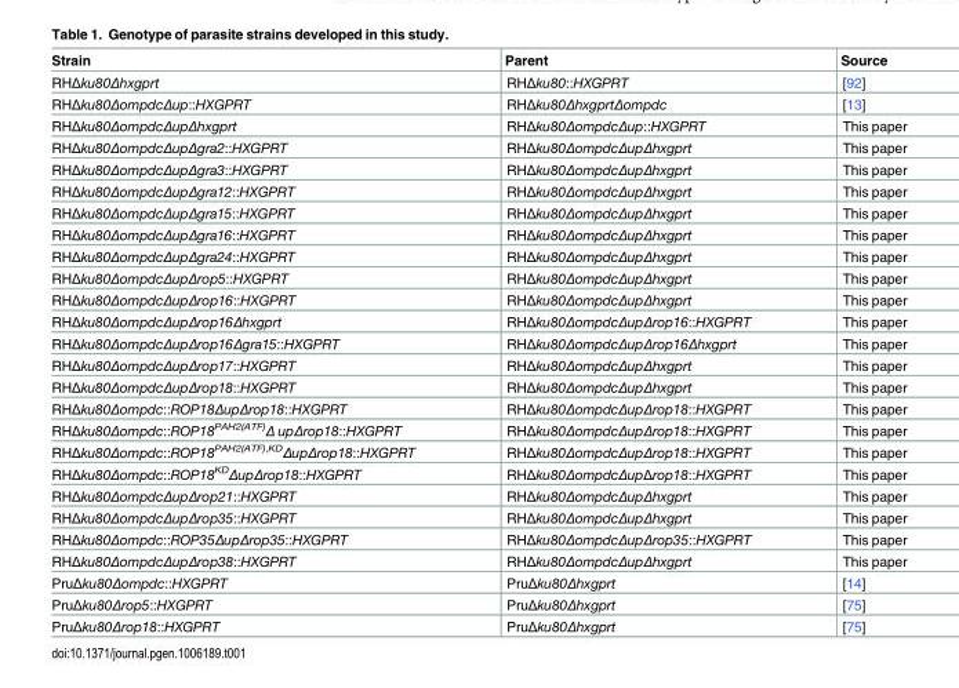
<table><thead><tr><td>Strain</td><td>Parent</td><td>Source</td></tr></thead><tbody><tr><td>RHΔku80Δhxgprt</td><td>RHΔku80::HXGPRT</td><td>[92]</td></tr><tr><td>RHΔku80ΔompdcΔup::HXGPRT</td><td>RHΔku80ΔhxgprtΔompdc</td><td>[13]</td></tr><tr><td>RHΔku80ΔompdcΔupΔhxgprt</td><td>RHΔku80ΔompdcΔup::HXGPRT</td><td>This paper</td></tr><tr><td>RHΔku80ΔompdcΔupΔgra2::HXGPRT</td><td>RHΔku80ΔompdcΔupΔhxgprt</td><td>This paper</td></tr><tr><td>RHΔku80ΔompdcΔupΔgra3::HXGPRT</td><td>RHΔku80ΔompdcΔupΔhxgprt</td><td>This paper</td></tr><tr><td>RHΔku80ΔompdcΔupΔgra12::HXGPRT</td><td>RHΔku80ΔompdcΔupΔhxgprt</td><td>This paper</td></tr><tr><td>RHΔku80ΔompdcΔupΔgra15::HXGPRT</td><td>RHΔku80ΔompdcΔupΔhxgprt</td><td>This paper</td></tr><tr><td>RHΔku80ΔompdcΔupΔgra16::HXGPRT</td><td>RHΔku80ΔompdcΔupΔhxgprt</td><td>This paper</td></tr><tr><td>RHΔku80ΔompdcΔupΔgra24::HXGPRT</td><td>RHΔku80ΔompdcΔupΔhxgprt</td><td>This paper</td></tr><tr><td>RHΔku80ΔompdcΔupΔrop5::HXGPRT</td><td>RHΔku80ΔompdcΔupΔhxgprt</td><td>This paper</td></tr><tr><td>RHΔku80ΔompdcΔupΔrop16::HXGPRT</td><td>RHΔku80ΔompdcΔupΔhxgprt</td><td>This paper</td></tr><tr><td>RHΔku80ΔompdcΔupΔrop16Δhxgprt</td><td>RHΔku80ΔompdcΔupΔrop16::HXGPRT</td><td>This paper</td></tr><tr><td>RHΔku80ΔompdcΔupΔrop16Δgra15::HXGPRT</td><td>RHΔku80ΔompdcΔupΔrop16Δhxgprt</td><td>This paper</td></tr><tr><td>RHΔku80ΔompdcΔupΔrop17::HXGPRT</td><td>RHΔku80ΔompdcΔupΔhxgprt</td><td>This paper</td></tr><tr><td>RHΔku80ΔompdcΔupΔrop18::HXGPRT</td><td>RHΔku80ΔompdcΔupΔhxgprt</td><td>This paper</td></tr><tr><td>RHΔku80Δompdc::ROP18ΔupΔrop18::HXGPRT</td><td>RHΔku80ΔompdcΔupΔrop18::HXGPRT</td><td>This paper</td></tr><tr><td>RHΔku80Δompdc::ROP18<sup>PAH2(ATF)</sup>Δ upΔrop18::HXGPRT</td><td>RHΔku80ΔompdcΔupΔrop18::HXGPRT</td><td>This paper</td></tr><tr><td>RHΔku80Δompdc::ROP18<sup>PAH2(ATF),KD</sup>ΔupΔrop18::HXGPRT</td><td>RHΔku80ΔompdcΔupΔrop18::HXGPRT</td><td>This paper</td></tr><tr><td>RHΔku80Δompdc::ROP18<sup>KD</sup>ΔupΔrop18::HXGPRT</td><td>RHΔku80ΔompdcΔupΔrop18::HXGPRT</td><td>This paper</td></tr><tr><td>RHΔku80ΔompdcΔupΔrop21::HXGPRT</td><td>RHΔku80ΔompdcΔupΔhxgprt</td><td>This paper</td></tr><tr><td>RHΔku80ΔompdcΔupΔrop35::HXGPRT</td><td>RHΔku80ΔompdcΔupΔhxgprt</td><td>This paper</td></tr><tr><td>RHΔku80Δompdc::ROP35ΔupΔrop35::HXGPRT</td><td>RHΔku80ΔompdcΔupΔrop35::HXGPRT</td><td>This paper</td></tr><tr><td>RHΔku80ΔompdcΔupΔrop38::HXGPRT</td><td>RHΔku80ΔompdcΔupΔhxgprt</td><td>This paper</td></tr><tr><td>PruΔku80Δompdc::HXGPRT</td><td>PruΔku80Δhxgprt</td><td>[14]</td></tr><tr><td>PruΔku80Δrop5::HXGPRT</td><td>PruΔku80Δhxgprt</td><td>[75]</td></tr><tr><td>PruΔku80Δrop18::HXGPRT</td><td>PruΔku80Δhxgprt</td><td>[75]</td></tr></tbody></table>